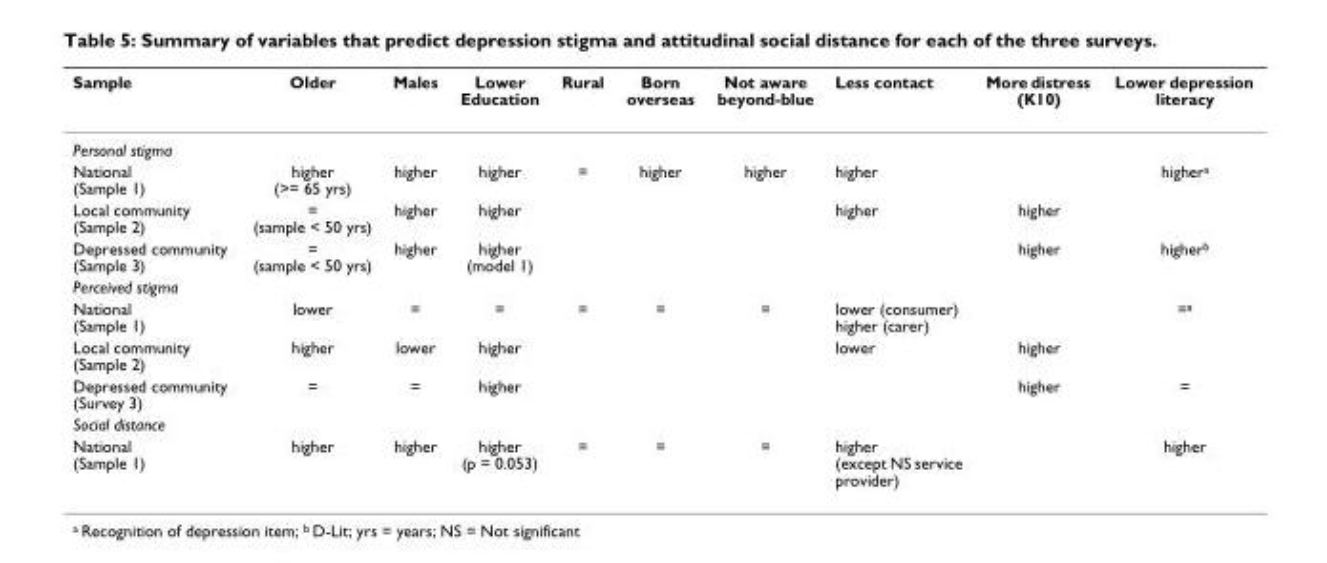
<table><thead><tr><td>Sample</td><td>Older</td><td>Males</td><td>Lower Education</td><td>Rural</td><td>Born overseas</td><td>Not aware beyond-blue</td><td>Less contact</td><td>More distress (K10)</td><td>Lower depression literacy</td></tr></thead><tbody><tr><td colspan="10">Personal stigma</td></tr><tr><td>National (Sample 1)</td><td>higher (&gt;= 65 yrs)</td><td>higher</td><td>higher</td><td>=</td><td>higher</td><td>higher</td><td>higher</td><td></td><td>higher<sup>a</sup></td></tr><tr><td>Local community (Sample 2)</td><td>= (sample &lt; 50 yrs)</td><td>higher</td><td>higher</td><td></td><td></td><td></td><td>higher</td><td>higher</td><td></td></tr><tr><td>Depressed community (Sample 3)</td><td>= (sample &lt; 50 yrs)</td><td>higher</td><td>higher (model 1)</td><td></td><td></td><td></td><td></td><td>higher</td><td>higher<sup>b</sup></td></tr><tr><td colspan="10">Perceived stigma</td></tr><tr><td>National (Sample 1)</td><td>lower</td><td>=</td><td>=</td><td>=</td><td>=</td><td>=</td><td>lower (consumer) higher (carer)</td><td></td><td>=<sup>a</sup></td></tr><tr><td>Local community (Sample 2)</td><td>higher</td><td>lower</td><td>higher</td><td></td><td></td><td></td><td>lower</td><td>higher</td><td></td></tr><tr><td>Depressed community (Survey 3)</td><td>=</td><td>=</td><td>higher</td><td></td><td></td><td></td><td></td><td>higher</td><td>=</td></tr><tr><td colspan="10">Social distance</td></tr><tr><td>National (Sample 1)</td><td>higher</td><td>higher</td><td>higher (p = 0.053)</td><td>=</td><td>=</td><td>=</td><td>higher (except NS service provider)</td><td></td><td>higher</td></tr></tbody></table>